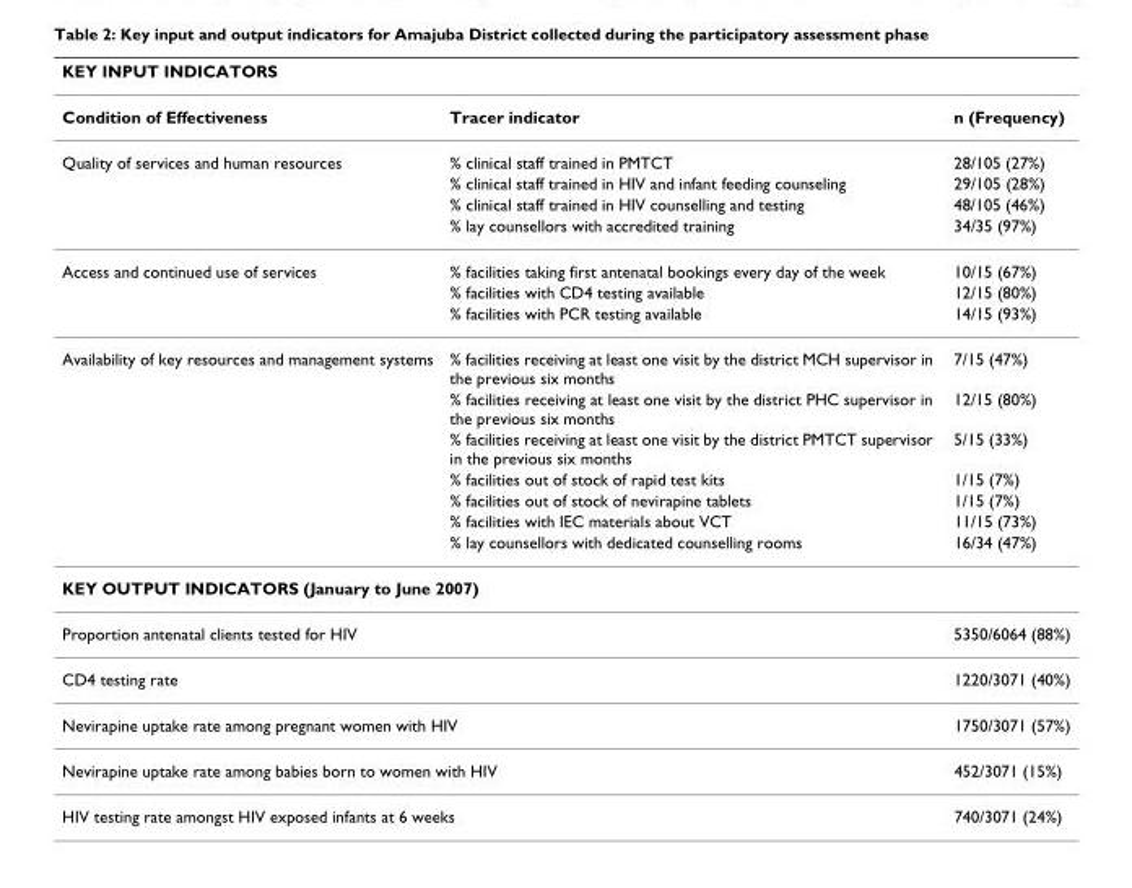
<table><thead><tr><td colspan="3">KEY INPUT INDICATORS</td></tr><tr><td>Condition of Effectiveness</td><td>Tracer indicator</td><td>n (Frequency)</td></tr></thead><tbody><tr><td rowspan="4">Quality of services and human resources</td><td>% clinical staff trained in PMTCT</td><td>28/105 (27%)</td></tr><tr><td>% clinical staff trained in HIV and infant feeding counseling</td><td>29/105 (28%)</td></tr><tr><td>% clinical staff trained in HIV counselling and testing</td><td>48/105 (46%)</td></tr><tr><td>% lay counsellors with accredited training</td><td>34/35 (97%)</td></tr><tr><td rowspan="3">Access and continued use of services</td><td>% facilities taking first antenatal bookings every day of the week</td><td>10/15 (67%)</td></tr><tr><td>% facilities with CD4 testing available</td><td>12/15 (80%)</td></tr><tr><td>% facilities with PCR testing available</td><td>14/15 (93%)</td></tr><tr><td rowspan="7">Availability of key resources and management systems</td><td>% facilities receiving at least one visit by the district MCH supervisor in the previous six months</td><td>7/15 (47%)</td></tr><tr><td>% facilities receiving at least one visit by the district PHC supervisor in the previous six months</td><td>12/15 (80%)</td></tr><tr><td>% facilities receiving at least one visit by the district PMTCT supervisor in the previous six months</td><td>5/15 (33%)</td></tr><tr><td>% facilities out of stock of rapid test kits</td><td>1/15 (7%)</td></tr><tr><td>% facilities out of stock of nevirapine tablets</td><td>1/15 (7%)</td></tr><tr><td>% facilities with IEC materials about VCT</td><td>11/15 (73%)</td></tr><tr><td>% lay counsellors with dedicated counselling rooms</td><td>16/34 (47%)</td></tr><tr><td colspan="3">KEY OUTPUT INDICATORS (January to June 2007)</td></tr><tr><td colspan="2">Proportion antenatal clients tested for HIV</td><td>5350/6064 (88%)</td></tr><tr><td colspan="2">CD4 testing rate</td><td>1220/3071 (40%)</td></tr><tr><td colspan="2">Nevirapine uptake rate among pregnant women with HIV</td><td>1750/3071 (57%)</td></tr><tr><td colspan="2">Nevirapine uptake rate among babies born to women with HIV</td><td>452/3071 (15%)</td></tr><tr><td colspan="2">HIV testing rate amongst HIV exposed infants at 6 weeks</td><td>740/3071 (24%)</td></tr></tbody></table>